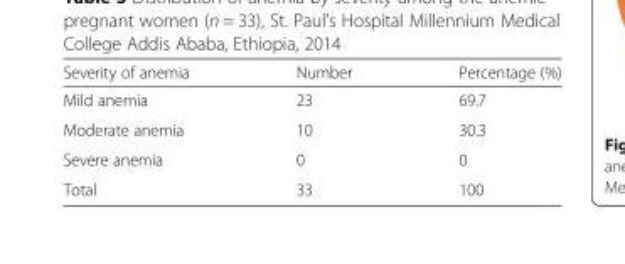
<table><thead><tr><td>Severity of anemia</td><td>Number</td><td>Percentage (%)</td></tr></thead><tbody><tr><td>Mild anemia</td><td>23</td><td>69.7</td></tr><tr><td>Moderate anemia</td><td>10</td><td>30.3</td></tr><tr><td>Severe anemia</td><td>0</td><td>0</td></tr><tr><td>Total</td><td>33</td><td>100</td></tr></tbody></table>